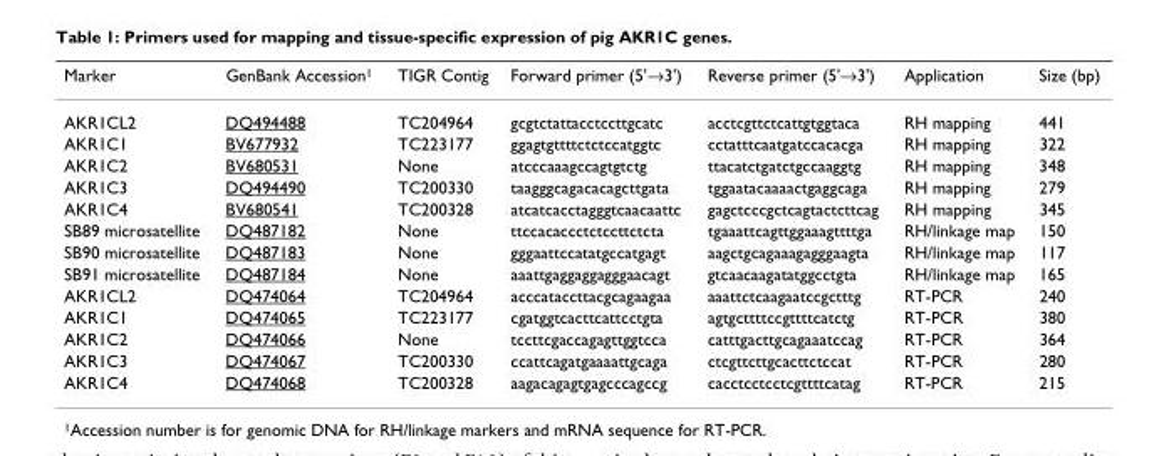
<table><thead><tr><td>Marker</td><td>GenBank Accession1</td><td>TIGR Contig</td><td>Forward primer (5&#x27;→3&#x27;)</td><td>Reverse primer (5&#x27;→3&#x27;)</td><td>Application</td><td>Size (bp)</td></tr></thead><tbody><tr><td>AKR1CL2</td><td>DQ494488</td><td>TC204964</td><td>gcgtctattacctccttgcatc</td><td>acctcgttctcattgtggtaca</td><td>RH mapping</td><td>441</td></tr><tr><td>AKR1C1</td><td>BV677932</td><td>TC223177</td><td>ggagtgttttctctccatggtc</td><td>cctatttcaatgatccacacga</td><td>RH mapping</td><td>322</td></tr><tr><td>AKR1C2</td><td>BV680531</td><td>None</td><td>atcccaaagccagtgtctg</td><td>ttacatctgatctgccaaggtg</td><td>RH mapping</td><td>348</td></tr><tr><td>AKR1C3</td><td>DQ494490</td><td>TC200330</td><td>taagggcagacacagcttgata</td><td>tggaatacaaaactgaggcaga</td><td>RH mapping</td><td>279</td></tr><tr><td>AKR1C4</td><td>BV680541</td><td>TC200328</td><td>atcatcacctagggtcaacaattc</td><td>gagctcccgctcagtactcttcag</td><td>RH mapping</td><td>345</td></tr><tr><td>SB89 microsatellite</td><td>DQ487182</td><td>None</td><td>ttccacaccctctccttctcta</td><td>tgaaattcagttggaaagttttga</td><td>RH/linkage map</td><td>150</td></tr><tr><td>SB90 microsatellite</td><td>DQ487183</td><td>None</td><td>gggaattccatatgccatgagt</td><td>aagctgcagaaagagggaagta</td><td>RH/linkage map</td><td>117</td></tr><tr><td>SB91 microsatellite</td><td>DQ487184</td><td>None</td><td>aaattgaggaggagggaacagt</td><td>gtcaacaagatatggcctgta</td><td>RH/linkage map</td><td>165</td></tr><tr><td>AKR1CL2</td><td>DQ474064</td><td>TC204964</td><td>acccataccttacgcagaagaa</td><td>aaattctcaagaatccgctttg</td><td>RT-PCR</td><td>240</td></tr><tr><td>AKR1C1</td><td>DQ474065</td><td>TC223177</td><td>cgatggtcacttcattcctgta</td><td>agtgcttttccgttttcatctg</td><td>RT-PCR</td><td>380</td></tr><tr><td>AKR1C2</td><td>DQ474066</td><td>None</td><td>tccttcgaccagagttggtcca</td><td>catttgacttgcagaaatccag</td><td>RT-PCR</td><td>364</td></tr><tr><td>AKR1C3</td><td>DQ474067</td><td>TC200330</td><td>ccattcagatgaaaattgcaga</td><td>ctcgttcttgcacttctccat</td><td>RT-PCR</td><td>280</td></tr><tr><td>AKR1C4</td><td>DQ474068</td><td>TC200328</td><td>aagacagagtgagcccagccg</td><td>cacctcctcctcgttttcatag</td><td>RT-PCR</td><td>215</td></tr></tbody></table>